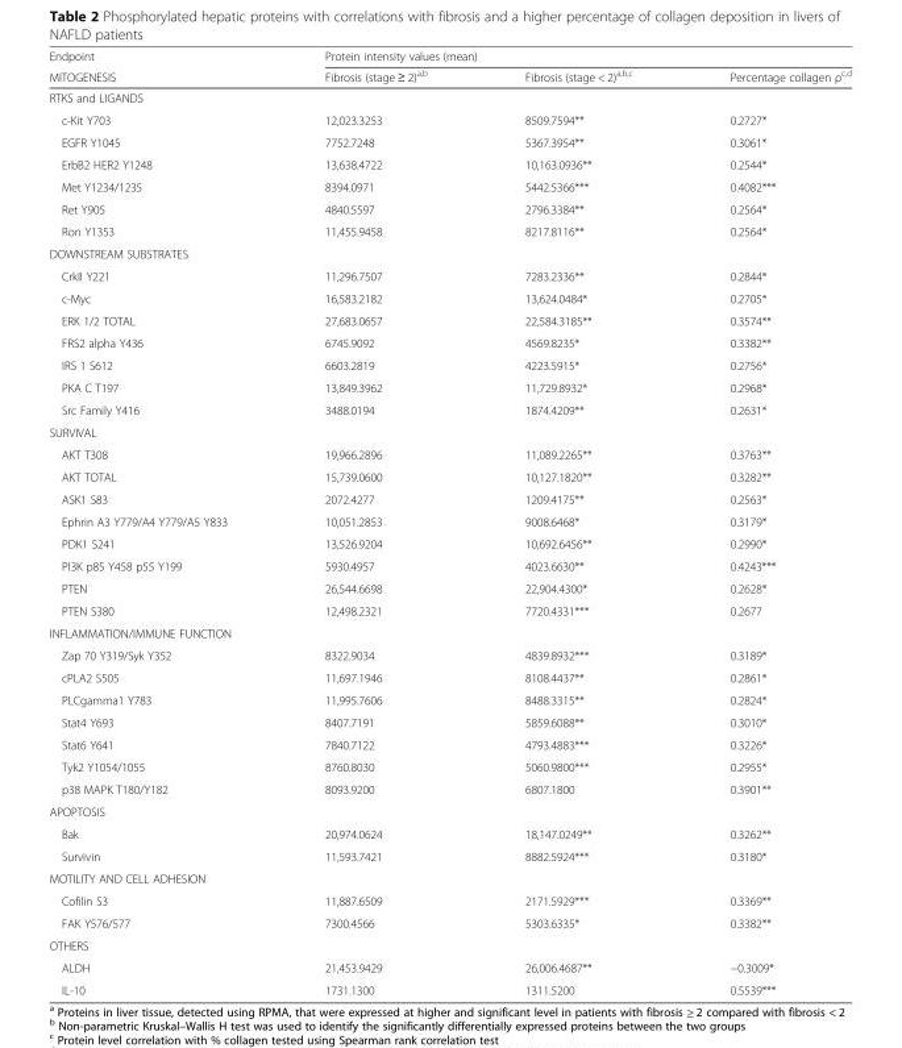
<table><thead><tr><td rowspan="2">Endpoint MITOGENESIS</td><td colspan="3">Protein intensity values (mean)</td></tr><tr><td>Fibrosis (stage ≥ 2)<sup>a,b</sup></td><td>Fibrosis (stage &lt; 2)<sup>a,b,c</sup></td><td>Percentage collagen ρ<sup>c,d</sup></td></tr></thead><tbody><tr><td colspan="4">RTKS and LIGANDS</td></tr><tr><td>c-Kit Y703</td><td>12,023.3253</td><td>8509.7594**</td><td>0.2727*</td></tr><tr><td>EGFR Y1045</td><td>7752.7248</td><td>5367.3954**</td><td>0.3061*</td></tr><tr><td>ErbB2 HER2 Y1248</td><td>13,638.4722</td><td>10,163.0936**</td><td>0.2544*</td></tr><tr><td>Met Y1234/1235</td><td>8394.0971</td><td>5442.5366***</td><td>0.4082***</td></tr><tr><td>Ret Y905</td><td>4840.5597</td><td>2796.3384**</td><td>0.2564*</td></tr><tr><td>Ron Y1353</td><td>11,455.9458</td><td>8217.8116**</td><td>0.2564*</td></tr><tr><td colspan="4">DOWNSTREAM SUBSTRATES</td></tr><tr><td>CrkII Y221</td><td>11,296.7507</td><td>7283.2336**</td><td>0.2844*</td></tr><tr><td>c-Myc</td><td>16,583.2182</td><td>13,624.0484*</td><td>0.2705*</td></tr><tr><td>ERK 1/2 TOTAL</td><td>27,683.0657</td><td>22,584.3185**</td><td>0.3574**</td></tr><tr><td>FRS2 alpha Y436</td><td>6745.9092</td><td>4569.8235*</td><td>0.3382**</td></tr><tr><td>IRS 1 S612</td><td>6603.2819</td><td>4223.5915*</td><td>0.2756*</td></tr><tr><td>PKA C T197</td><td>13,849.3962</td><td>11,729.8932*</td><td>0.2968*</td></tr><tr><td>Src Family Y416</td><td>3488.0194</td><td>1874.4209**</td><td>0.2631*</td></tr><tr><td colspan="4">SURVIVAL</td></tr><tr><td>AKT T308</td><td>19,966.2896</td><td>11,089.2265**</td><td>0.3763**</td></tr><tr><td>AKT TOTAL</td><td>15,739.0600</td><td>10,127.1820**</td><td>0.3282**</td></tr><tr><td>ASK1 S83</td><td>2072.4277</td><td>1209.4175**</td><td>0.2563*</td></tr><tr><td>Ephrin A3 Y779/A4 Y779/A5 Y833</td><td>10,051.2853</td><td>9008.6468*</td><td>0.3179*</td></tr><tr><td>PDK1 S241</td><td>13,526.9204</td><td>10,692.6456**</td><td>0.2990*</td></tr><tr><td>PI3K p85 Y458 p55 Y199</td><td>5930.4957</td><td>4023.6630**</td><td>0.4243***</td></tr><tr><td>PTEN</td><td>26,544.6698</td><td>22,904.4300*</td><td>0.2628*</td></tr><tr><td>PTEN S380</td><td>12,498.2321</td><td>7720.4331***</td><td>0.2677</td></tr><tr><td colspan="4">INFLAMMATION/IMMUNE FUNCTION</td></tr><tr><td>Zap 70 Y319/Syk Y352</td><td>8322.9034</td><td>4839.8932***</td><td>0.3189*</td></tr><tr><td>cPLA2 S505</td><td>11,697.1946</td><td>8108.4437**</td><td>0.2861*</td></tr><tr><td>PLCgamma1 Y783</td><td>11,995.7606</td><td>8488.3315**</td><td>0.2824*</td></tr><tr><td>Stat4 Y693</td><td>8407.7191</td><td>5859.6088**</td><td>0.3010*</td></tr><tr><td>Stat6 Y641</td><td>7840.7122</td><td>4793.4883***</td><td>0.3226*</td></tr><tr><td>Tyk2 Y1054/1055</td><td>8760.8030</td><td>5060.9800***</td><td>0.2955*</td></tr><tr><td>p38 MAPK T180/Y182</td><td>8093.9200</td><td>6807.1800</td><td>0.3901**</td></tr><tr><td colspan="4">APOPTOSIS</td></tr><tr><td>Bak</td><td>20,974.0624</td><td>18,147.0249**</td><td>0.3262**</td></tr><tr><td>Survivin</td><td>11,593.7421</td><td>8882.5924***</td><td>0.3180*</td></tr><tr><td colspan="4">MOTILITY AND CELL ADHESION</td></tr><tr><td>Cofilin S3</td><td>11,887.6509</td><td>2171.5929***</td><td>0.3369**</td></tr><tr><td>FAK Y576/577</td><td>7300.4566</td><td>5303.6335*</td><td>0.3382**</td></tr><tr><td colspan="4">OTHERS</td></tr><tr><td>ALDH</td><td>21,453.9429</td><td>26,006.4687**</td><td>−0.3009*</td></tr><tr><td>IL-10</td><td>1731.1300</td><td>1311.5200</td><td>0.5539***</td></tr></tbody></table>